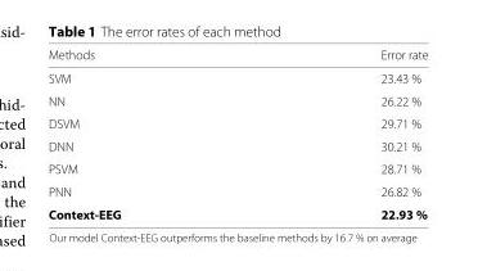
<table><thead><tr><td>Methods</td><td>Error rate</td></tr></thead><tbody><tr><td>SVM</td><td>23.43 %</td></tr><tr><td>NN</td><td>26.22 %</td></tr><tr><td>DSVM</td><td>29.71 %</td></tr><tr><td>DNN</td><td>30.21 %</td></tr><tr><td>PSVM</td><td>28.71 %</td></tr><tr><td>PNN</td><td>26.82 %</td></tr><tr><td>Context-EEG</td><td>22.93 %</td></tr></tbody></table>